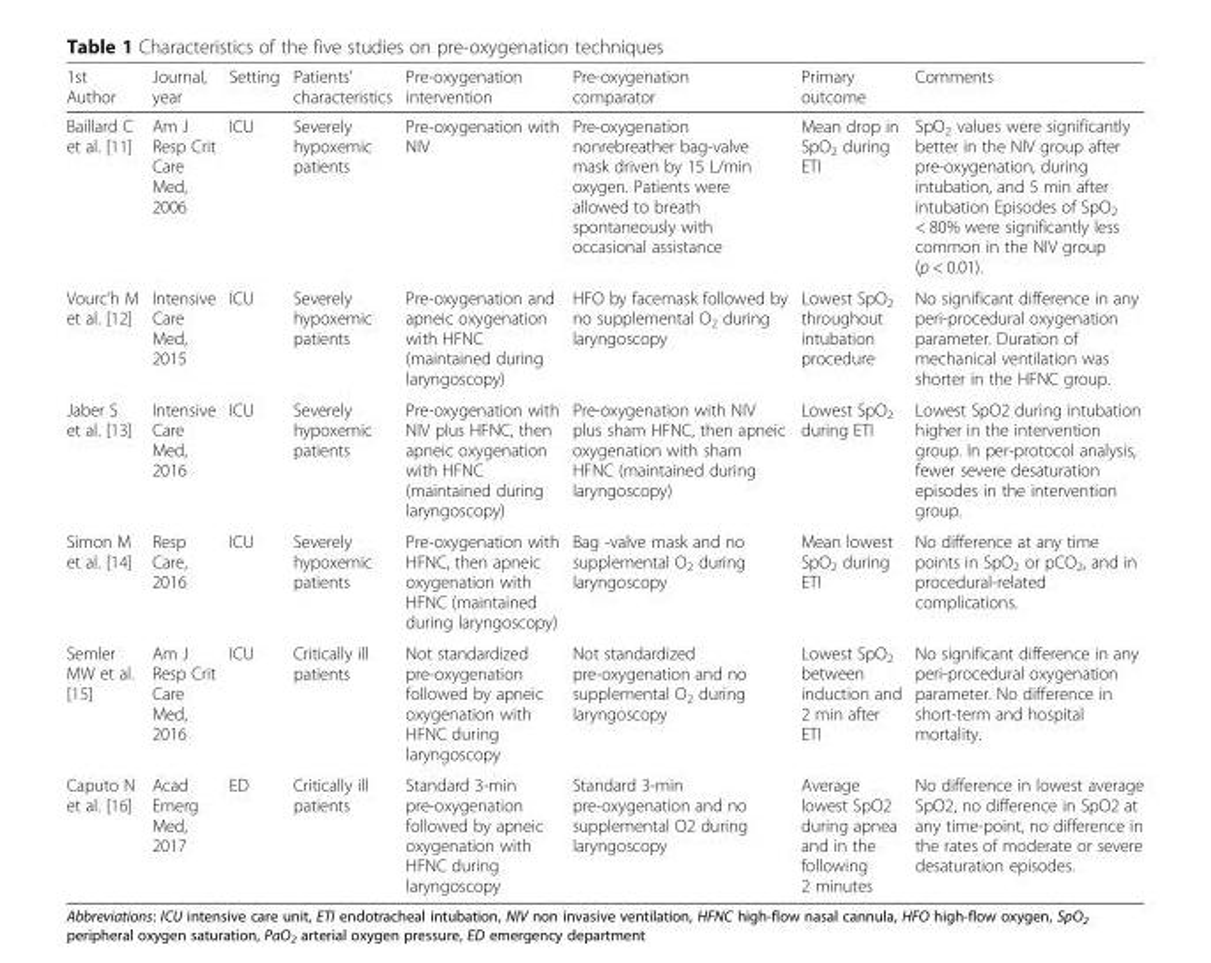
<table><thead><tr><td>1st Author</td><td>Journal, year</td><td>Setting</td><td>Patients’ characteristics</td><td>Pre-oxygenation intervention</td><td>Pre-oxygenation comparator</td><td>Primary outcome</td><td>Comments</td></tr></thead><tbody><tr><td>Baillard C et al. [11]</td><td>Am J Resp Crit Care Med, 2006</td><td>ICU</td><td>Severely hypoxemic patients</td><td>Pre-oxygenation with NIV</td><td>Pre-oxygenation nonrebreather bag-valve mask driven by 15 L/min oxygen. Patients were allowed to breath spontaneously with occasional assistance</td><td>Mean drop in SpO<sub>2</sub> during ETI</td><td>SpO<sub>2</sub> values were significantly better in the NIV group after pre-oxygenation, during intubation, and 5 min after intubation Episodes of SpO<sub>2</sub> &lt; 80% were significantly less common in the NIV group (p &lt; 0.01).</td></tr><tr><td>Vourc’h M et al. [12]</td><td>Intensive Care Med, 2015</td><td>ICU</td><td>Severely hypoxemic patients</td><td>Pre-oxygenation and apneic oxygenation with HFNC (maintained during laryngoscopy)</td><td>HFO by facemask followed by no supplemental O<sub>2</sub> during laryngoscopy</td><td>Lowest SpO<sub>2</sub> throughout intubation procedure</td><td>No significant difference in any peri-procedural oxygenation parameter. Duration of mechanical ventilation was shorter in the HFNC group.</td></tr><tr><td>Jaber S et al. [13]</td><td>Intensive Care Med, 2016</td><td>ICU</td><td>Severely hypoxemic patients</td><td>Pre-oxygenation with NIV plus HFNC, then apneic oxygenation with HFNC (maintained during laryngoscopy)</td><td>Pre-oxygenation with NIV plus sham HFNC, then apneic oxygenation with sham HFNC (maintained during laryngoscopy)</td><td>Lowest SpO<sub>2</sub> during ETI</td><td>Lowest SpO2 during intubation higher in the intervention group. In per-protocol analysis, fewer severe desaturation episodes in the intervention group.</td></tr><tr><td>Simon M et al. [14]</td><td>Resp Care, 2016</td><td>ICU</td><td>Severely hypoxemic patients</td><td>Pre-oxygenation with HFNC, then apneic oxygenation with HFNC (maintained during laryngoscopy)</td><td>Bag -valve mask and no supplemental O<sub>2</sub> during laryngoscopy</td><td>Mean lowest SpO<sub>2</sub> during ETI</td><td>No difference at any time points in SpO<sub>2</sub> or pCO<sub>2</sub>, and in procedural-related complications.</td></tr><tr><td>Semler MW et al. [15]</td><td>Am J Resp Crit Care Med, 2016</td><td>ICU</td><td>Critically ill patients</td><td>Not standardized pre-oxygenation followed by apneic oxygenation with HFNC during laryngoscopy</td><td>Not standardized pre-oxygenation and no supplemental O<sub>2</sub> during laryngoscopy</td><td>Lowest SpO<sub>2</sub> between induction and 2 min after ETI</td><td>No significant difference in any peri-procedural oxygenation parameter. No difference in short-term and hospital mortality.</td></tr><tr><td>Caputo N et al. [16]</td><td>Acad Emerg Med, 2017</td><td>ED</td><td>Critically ill patients</td><td>Standard 3-min pre-oxygenation followed by apneic oxygenation with HFNC during laryngoscopy</td><td>Standard 3-min pre-oxygenation and no supplemental O2 during laryngoscopy</td><td>Average lowest SpO2 during apnea and in the following 2 minutes</td><td>No difference in lowest average SpO2, no difference in SpO2 at any time-point, no difference in the rates of moderate or severe desaturation episodes.</td></tr></tbody></table>